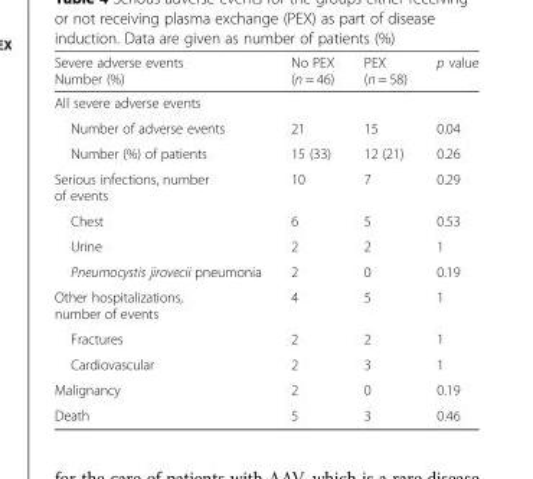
<table><thead><tr><td>Severe adverse events Number (%)</td><td>No PEX (n = 46)</td><td>PEX (n = 58)</td><td>p value</td></tr></thead><tbody><tr><td colspan="4">All severe adverse events</td></tr><tr><td>Number of adverse events</td><td>21</td><td>15</td><td>0.04</td></tr><tr><td>Number (%) of patients</td><td>15 (33)</td><td>12 (21)</td><td>0.26</td></tr><tr><td>Serious infections, number of events</td><td>10</td><td>7</td><td>0.29</td></tr><tr><td>Chest</td><td>6</td><td>5</td><td>0.53</td></tr><tr><td>Urine</td><td>2</td><td>2</td><td>1</td></tr><tr><td>Pneumocystis jirovecii pneumonia</td><td>2</td><td>0</td><td>0.19</td></tr><tr><td>Other hospitalizations, number of events</td><td>4</td><td>5</td><td>1</td></tr><tr><td>Fractures</td><td>2</td><td>2</td><td>1</td></tr><tr><td>Cardiovascular</td><td>2</td><td>3</td><td>1</td></tr><tr><td>Malignancy</td><td>2</td><td>0</td><td>0.19</td></tr><tr><td>Death</td><td>5</td><td>3</td><td>0.46</td></tr></tbody></table>